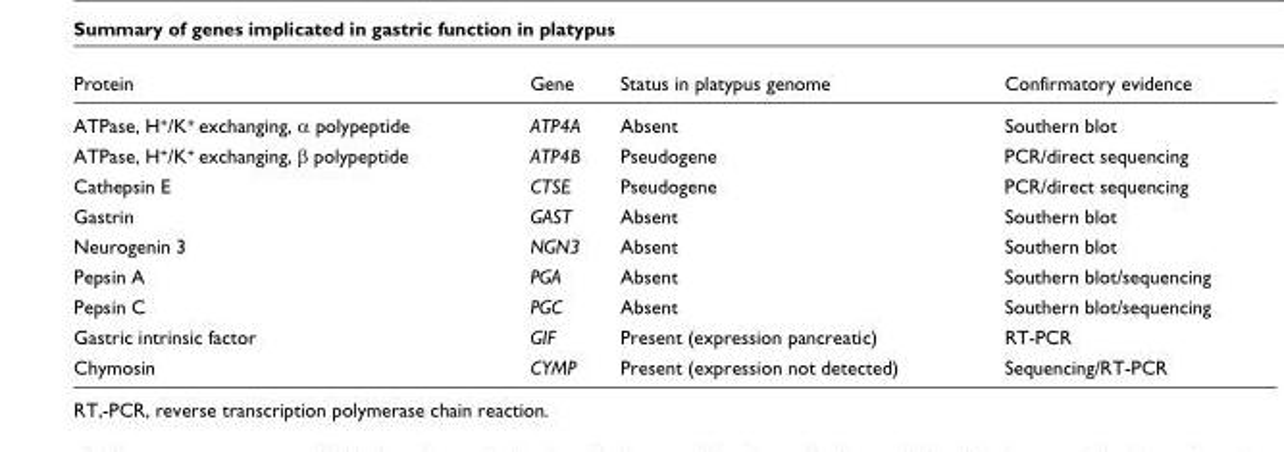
<table><thead><tr><td>Protein</td><td>Gene</td><td>Status in platypus genome</td><td>Confirmatory evidence</td></tr></thead><tbody><tr><td>ATPase, H<sup>+</sup>/K<sup>+</sup> exchanging, α polypeptide</td><td>ATP4A</td><td>Absent</td><td>Southern blot</td></tr><tr><td>ATPase, H<sup>+</sup>/K<sup>+</sup> exchanging, β polypeptide</td><td>ATP4B</td><td>Pseudogene</td><td>PCR/direct sequencing</td></tr><tr><td>Cathepsin E</td><td>CTSE</td><td>Pseudogene</td><td>PCR/direct sequencing</td></tr><tr><td>Gastrin</td><td>GAST</td><td>Absent</td><td>Southern blot</td></tr><tr><td>Neurogenin 3</td><td>NGN3</td><td>Absent</td><td>Southern blot</td></tr><tr><td>Pepsin A</td><td>PGA</td><td>Absent</td><td>Southern blot/sequencing</td></tr><tr><td>Pepsin C</td><td>PGC</td><td>Absent</td><td>Southern blot/sequencing</td></tr><tr><td>Gastric intrinsic factor</td><td>GIF</td><td>Present (expression pancreatic)</td><td>RT-PCR</td></tr><tr><td>Chymosin</td><td>CYMP</td><td>Present (expression not detected)</td><td>Sequencing/RT-PCR</td></tr></tbody></table>